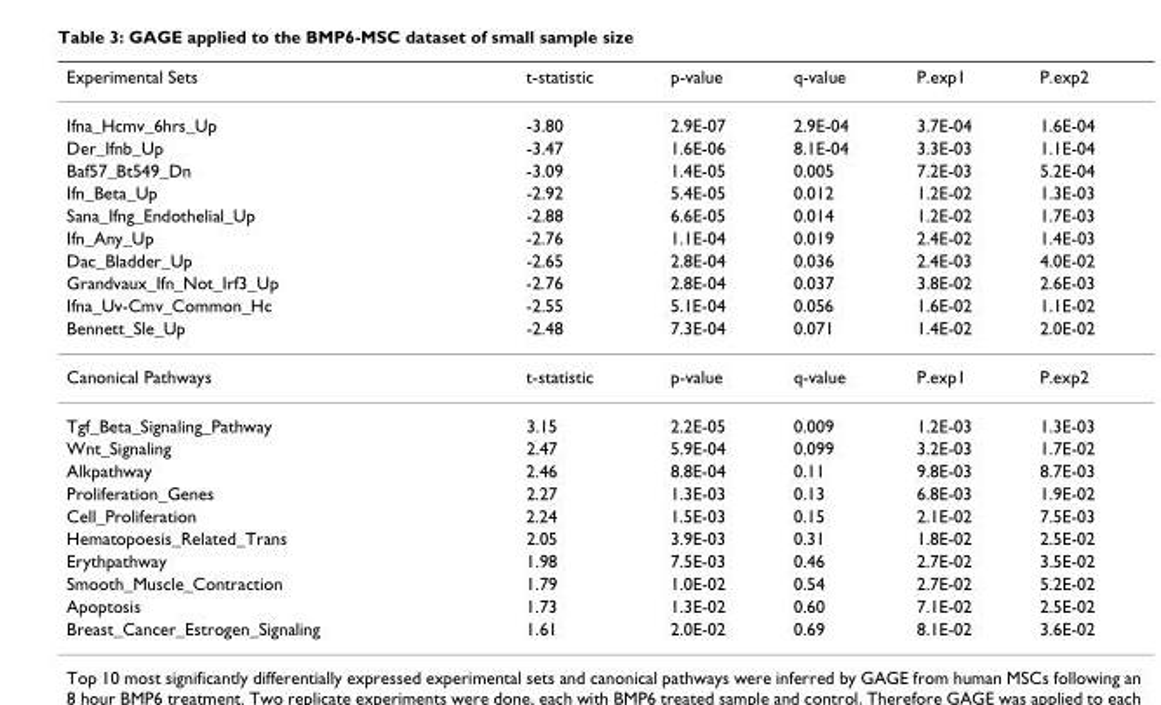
<table><thead><tr><td>Experimental Sets</td><td>t-statistic</td><td>p-value</td><td>q-value</td><td>P.exp1</td><td>P.exp2</td></tr></thead><tbody><tr><td>Ifna_Hcmv_6hrs_Up</td><td>-3.80</td><td>2.9E-07</td><td>2.9E-04</td><td>3.7E-04</td><td>1.6E-04</td></tr><tr><td>Der_Ifnb_Up</td><td>-3.47</td><td>1.6E-06</td><td>8.1E-04</td><td>3.3E-03</td><td>1.1E-04</td></tr><tr><td>Baf57_Bt549_Dn</td><td>-3.09</td><td>1.4E-05</td><td>0.005</td><td>7.2E-03</td><td>5.2E-04</td></tr><tr><td>Ifn_Beta_Up</td><td>-2.92</td><td>5.4E-05</td><td>0.012</td><td>1.2E-02</td><td>1.3E-03</td></tr><tr><td>Sana_Ifng_Endothelial_Up</td><td>-2.88</td><td>6.6E-05</td><td>0.014</td><td>1.2E-02</td><td>1.7E-03</td></tr><tr><td>Ifn_Any_Up</td><td>-2.76</td><td>1.1E-04</td><td>0.019</td><td>2.4E-02</td><td>1.4E-03</td></tr><tr><td>Dac_Bladder_Up</td><td>-2.65</td><td>2.8E-04</td><td>0.036</td><td>2.4E-03</td><td>4.0E-02</td></tr><tr><td>Grandvaux_Ifn_Not_Irf3_Up</td><td>-2.76</td><td>2.8E-04</td><td>0.037</td><td>3.8E-02</td><td>2.6E-03</td></tr><tr><td>Ifna_Uv-Cmv_Common_Hc</td><td>-2.55</td><td>5.1E-04</td><td>0.056</td><td>1.6E-02</td><td>1.1E-02</td></tr><tr><td>Bennett_Sle_Up</td><td>-2.48</td><td>7.3E-04</td><td>0.071</td><td>1.4E-02</td><td>2.0E-02</td></tr><tr><td>Canonical Pathways</td><td>t-statistic</td><td>p-value</td><td>q-value</td><td>P.exp1</td><td>P.exp2</td></tr><tr><td>Tgf_Beta_Signaling_Pathway</td><td>3.15</td><td>2.2E-05</td><td>0.009</td><td>1.2E-03</td><td>1.3E-03</td></tr><tr><td>Wnt_Signaling</td><td>2.47</td><td>5.9E-04</td><td>0.099</td><td>3.2E-03</td><td>1.7E-02</td></tr><tr><td>Alkpathway</td><td>2.46</td><td>8.8E-04</td><td>0.11</td><td>9.8E-03</td><td>8.7E-03</td></tr><tr><td>Proliferation_Genes</td><td>2.27</td><td>1.3E-03</td><td>0.13</td><td>6.8E-03</td><td>1.9E-02</td></tr><tr><td>Cell_Proliferation</td><td>2.24</td><td>1.5E-03</td><td>0.15</td><td>2.1E-02</td><td>7.5E-03</td></tr><tr><td>Hematopoesis_Related_Trans</td><td>2.05</td><td>3.9E-03</td><td>0.31</td><td>1.8E-02</td><td>2.5E-02</td></tr><tr><td>Erythpathway</td><td>1.98</td><td>7.5E-03</td><td>0.46</td><td>2.7E-02</td><td>3.5E-02</td></tr><tr><td>Smooth_Muscle_Contraction</td><td>1.79</td><td>1.0E-02</td><td>0.54</td><td>2.7E-02</td><td>5.2E-02</td></tr><tr><td>Apoptosis</td><td>1.73</td><td>1.3E-02</td><td>0.60</td><td>7.1E-02</td><td>2.5E-02</td></tr><tr><td>Breast_Cancer_Estrogen_Signaling</td><td>1.61</td><td>2.0E-02</td><td>0.69</td><td>8.1E-02</td><td>3.6E-02</td></tr></tbody></table>